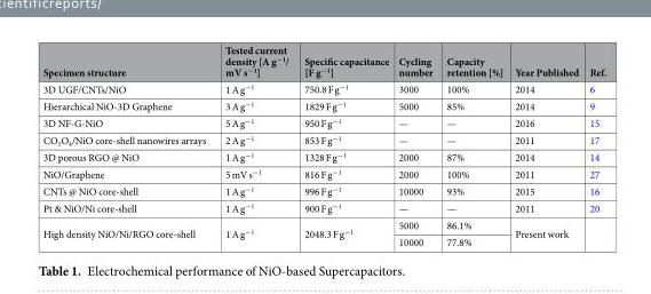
<table><thead><tr><td>Specimen structure</td><td>Tested current density [A g<sup>−1</sup>/ mV s<sup>−1</sup>]</td><td>Specific capacitance [F g<sup>−1</sup>]</td><td>Cycling number</td><td>Capacity retention [%]</td><td>Year Published</td><td>Ref.</td></tr></thead><tbody><tr><td>3D UGF/CNTs/NiO</td><td>1 A g<sup>−1</sup></td><td>750.8 F g<sup>−1</sup></td><td>3000</td><td>100%</td><td>2014</td><td>6</td></tr><tr><td>Hierarchical NiO-3D Graphene</td><td>3 A g<sup>−1</sup></td><td>1829 F g<sup>−1</sup></td><td>5000</td><td>85%</td><td>2014</td><td>9</td></tr><tr><td>3D NF-G-NiO</td><td>5 A g<sup>−1</sup></td><td>950 F g<sup>−1</sup></td><td>—</td><td>—</td><td>2016</td><td>15</td></tr><tr><td>CO<sub>3</sub>O<sub>4</sub>/NiO core-shell nanowires arrays</td><td>2 A g<sup>−1</sup></td><td>853 F g<sup>−1</sup></td><td>—</td><td>—</td><td>2011</td><td>17</td></tr><tr><td>3D porous RGO @ NiO</td><td>1 A g<sup>−1</sup></td><td>1328 F g<sup>−1</sup></td><td>2000</td><td>87%</td><td>2014</td><td>14</td></tr><tr><td>NiO/Graphene</td><td>5 mV s<sup>−1</sup></td><td>816 F g<sup>−1</sup></td><td>2000</td><td>100%</td><td>2011</td><td>27</td></tr><tr><td>CNTs @ NiO core-shell</td><td>1 A g<sup>−1</sup></td><td>996 F g<sup>−1</sup></td><td>10000</td><td>93%</td><td>2015</td><td>16</td></tr><tr><td>Pt &amp; NiO/Ni core-shell</td><td>1 A g<sup>−1</sup></td><td>900 F g<sup>−1</sup></td><td>—</td><td>—</td><td>2011</td><td>20</td></tr><tr><td rowspan="2">High density NiO/Ni/RGO core-shell</td><td rowspan="2">1 A g<sup>−1</sup></td><td rowspan="2">2048.3 F g<sup>−1</sup></td><td>5000</td><td>86.1%</td><td rowspan="2">Present work</td><td rowspan="2"></td></tr><tr><td>10000</td><td>77.8%</td></tr></tbody></table>